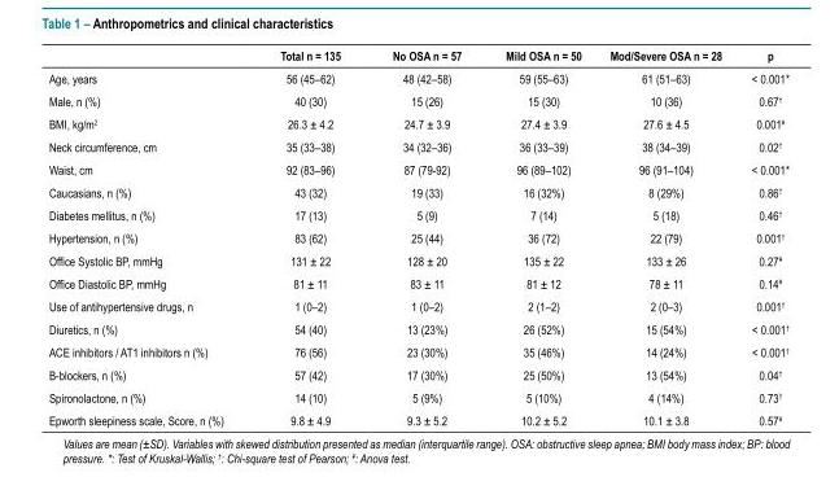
<table><thead><tr><td></td><td>Total n = 135</td><td>No OSA n = 57</td><td>Mild OSA n = 50</td><td>Mod/Severe OSA n = 28</td><td>p</td></tr></thead><tbody><tr><td>Age, years</td><td>56 (45–62)</td><td>48 (42–58)</td><td>59 (55–63)</td><td>61 (51–63)</td><td>&lt; 0.001*</td></tr><tr><td>Male, n (%)</td><td>40 (30)</td><td>15 (26)</td><td>15 (30)</td><td>10 (36)</td><td>0.67<sup>†</sup></td></tr><tr><td>BMI, kg/m<sup>2</sup></td><td>26.3 ± 4.2</td><td>24.7 ± 3.9</td><td>27.4 ± 3.9</td><td>27.6 ± 4.5</td><td>0.001<sup>¥</sup></td></tr><tr><td>Neck circumference, cm</td><td>35 (33–38)</td><td>34 (32–36)</td><td>36 (33–39)</td><td>38 (34–39)</td><td>0.02<sup>†</sup></td></tr><tr><td>Waist, cm</td><td>92 (83–96)</td><td>87 (79-92)</td><td>96 (89–102)</td><td>96 (91–104)</td><td>&lt; 0.001*</td></tr><tr><td>Caucasians, n (%)</td><td>43 (32)</td><td>19 (33)</td><td>16 (32%)</td><td>8 (29%)</td><td>0.86<sup>†</sup></td></tr><tr><td>Diabetes mellitus, n (%)</td><td>17 (13)</td><td>5 (9)</td><td>7 (14)</td><td>5 (18)</td><td>0.46<sup>†</sup></td></tr><tr><td>Hypertension, n (%)</td><td>83 (62)</td><td>25 (44)</td><td>36 (72)</td><td>22 (79)</td><td>0.001<sup>†</sup></td></tr><tr><td>Office Systolic BP, mmHg</td><td>131 ± 22</td><td>128 ± 20</td><td>135 ± 22</td><td>133 ± 26</td><td>0.27<sup>¥</sup></td></tr><tr><td>Office Diastolic BP, mmHg</td><td>81 ± 11</td><td>83 ± 11</td><td>81 ± 12</td><td>78 ± 11</td><td>0.14<sup>¥</sup></td></tr><tr><td>Use of antihypertensive drugs, n</td><td>1 (0–2)</td><td>1 (0–2)</td><td>2 (1–2)</td><td>2 (0–3)</td><td>0.001<sup>†</sup></td></tr><tr><td>Diuretics, n (%)</td><td>54 (40)</td><td>13 (23%)</td><td>26 (52%)</td><td>15 (54%)</td><td>&lt; 0.001<sup>†</sup></td></tr><tr><td>ACE inhibitors / AT1 inhibitors n (%)</td><td>76 (56)</td><td>23 (30%)</td><td>35 (46%)</td><td>14 (24%)</td><td>&lt; 0.001<sup>†</sup></td></tr><tr><td>B-blockers, n (%)</td><td>57 (42)</td><td>17 (30%)</td><td>25 (50%)</td><td>13 (54%)</td><td>0.04<sup>†</sup></td></tr><tr><td>Spironolactone, n (%)</td><td>14 (10)</td><td>5 (9%)</td><td>5 (10%)</td><td>4 (14%)</td><td>0.73<sup>†</sup></td></tr><tr><td>Epworth sleepiness scale, Score, n (%)</td><td>9.8 ± 4.9</td><td>9.3 ± 5.2</td><td>10.2 ± 5.2</td><td>10.1 ± 3.8</td><td>0.57<sup>¥</sup></td></tr></tbody></table>